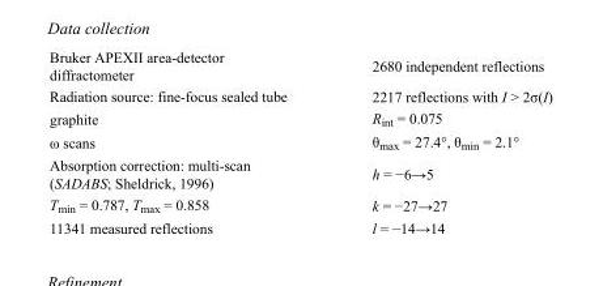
<table><tbody><tr><td>Bruker APEXII area-detector diffractometer</td><td>2680 independent reflections</td></tr><tr><td>Radiation source: fine-focus sealed tube</td><td>2217 reflections with I &gt; 2σ(I)</td></tr><tr><td>graphite</td><td>R<sub>int</sub> = 0.075</td></tr><tr><td>ω scans</td><td>θ<sub>max</sub> = 27.4°, θ<sub>min</sub> = 2.1°</td></tr><tr><td>Absorption correction: multi-scan (SADABS; Sheldrick, 1996)</td><td>h = −6→5</td></tr><tr><td>T<sub>min</sub> = 0.787, T<sub>max</sub> = 0.858</td><td>k = −27→27</td></tr><tr><td>11341 measured reflections</td><td>l = −14→14</td></tr></tbody></table>